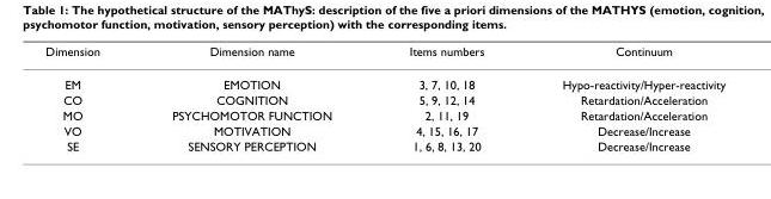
<table><thead><tr><td>Dimension</td><td>Dimension name</td><td>Items numbers</td><td>Continuum</td></tr></thead><tbody><tr><td>EM</td><td>EMOTION</td><td>3, 7, 10, 18</td><td>Hypo-reactivity/Hyper-reactivity</td></tr><tr><td>CO</td><td>COGNITION</td><td>5, 9, 12, 14</td><td>Retardation/Acceleration</td></tr><tr><td>MO</td><td>PSYCHOMOTOR FUNCTION</td><td>2, 11, 19</td><td>Retardation/Acceleration</td></tr><tr><td>VO</td><td>MOTIVATION</td><td>4, 15, 16, 17</td><td>Decrease/Increase</td></tr><tr><td>SE</td><td>SENSORY PERCEPTION</td><td>1, 6, 8, 13, 20</td><td>Decrease/Increase</td></tr></tbody></table>